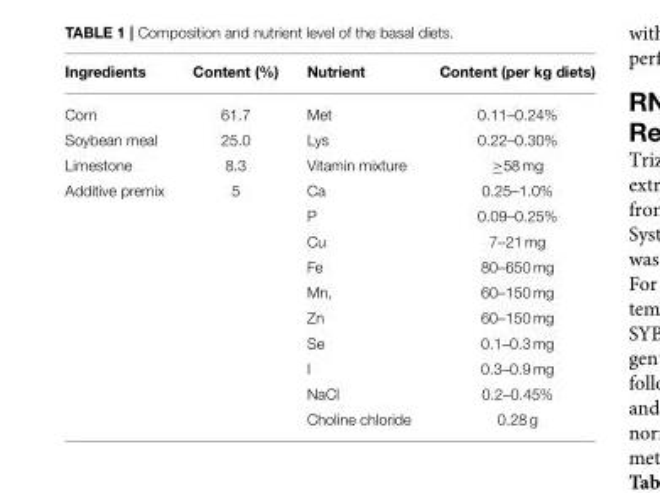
<table><thead><tr><td>Ingredients</td><td>Content (%)</td><td>Nutrient</td><td>Content (per kg diets)</td></tr></thead><tbody><tr><td>Corn</td><td>61.7</td><td>Met</td><td>0.11–0.24%</td></tr><tr><td>Soybean meal</td><td>25.0</td><td>Lys</td><td>0.22–0.30%</td></tr><tr><td>Limestone</td><td>8.3</td><td>Vitamin mixture</td><td>≥58 mg</td></tr><tr><td rowspan="10">Additive premix</td><td>5</td><td>Ca</td><td>0.25–1.0%</td></tr><tr><td></td><td>P</td><td>0.09–0.25%</td></tr><tr><td></td><td>Cu</td><td>7–21 mg</td></tr><tr><td></td><td>Fe</td><td>80–650 mg</td></tr><tr><td></td><td>Mn,</td><td>60–150 mg</td></tr><tr><td></td><td>Zn</td><td>60–150 mg</td></tr><tr><td></td><td>Se</td><td>0.1–0.3 mg</td></tr><tr><td></td><td>I</td><td>0.3–0.9 mg</td></tr><tr><td></td><td>NaCl</td><td>0.2–0.45%</td></tr><tr><td></td><td>Choline chloride</td><td>0.28 g</td></tr></tbody></table>